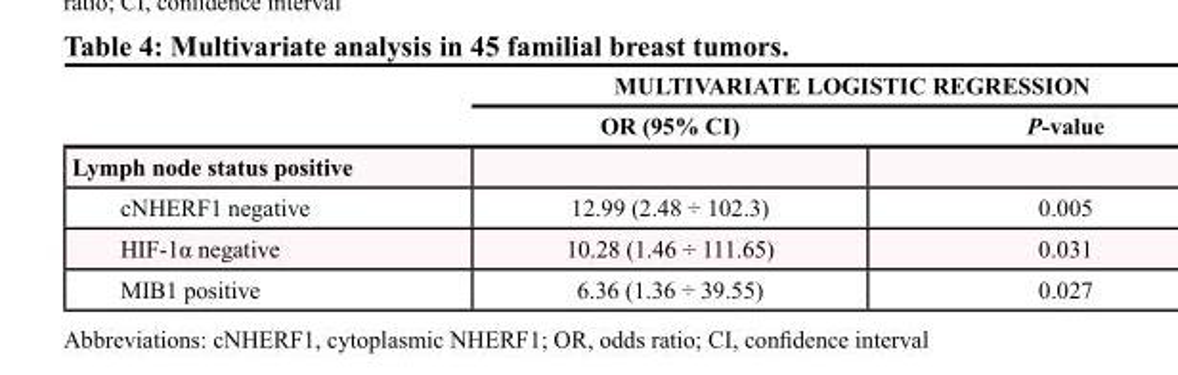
<table><thead><tr><td rowspan="2"></td><td colspan="2">MULTIVARIATE LOGISTIC REGRESSION</td></tr><tr><td>OR (95% CI)</td><td>P-value</td></tr></thead><tbody><tr><td colspan="3">Lymph node status positive</td></tr><tr><td>cNHERF1 negative</td><td>12.99 (2.48 ÷ 102.3)</td><td>0.005</td></tr><tr><td>HIF-1α negative</td><td>10.28 (1.46 ÷ 111.65)</td><td>0.031</td></tr><tr><td>MIB1 positive</td><td>6.36 (1.36 ÷ 39.55)</td><td>0.027</td></tr></tbody></table>